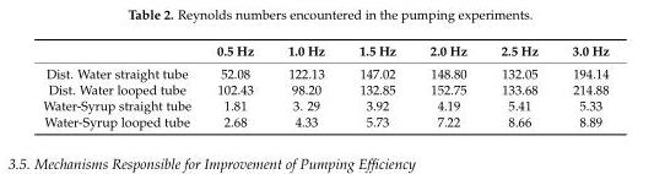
<table><thead><tr><td></td><td>0.5 Hz</td><td>1.0 Hz</td><td>1.5 Hz</td><td>2.0 Hz</td><td>2.5 Hz</td><td>3.0 Hz</td></tr></thead><tbody><tr><td>Dist. Water straight tube</td><td>52.08</td><td>122.13</td><td>147.02</td><td>148.80</td><td>132.05</td><td>194.14</td></tr><tr><td>Dist. Water looped tube</td><td>102.43</td><td>98.20</td><td>132.85</td><td>152.75</td><td>133.68</td><td>214.88</td></tr><tr><td>Water-Syrup straight tube</td><td>1.81</td><td>3. 29</td><td>3.92</td><td>4.19</td><td>5.41</td><td>5.33</td></tr><tr><td>Water-Syrup looped tube</td><td>2.68</td><td>4.33</td><td>5.73</td><td>7.22</td><td>8.66</td><td>8.89</td></tr></tbody></table>